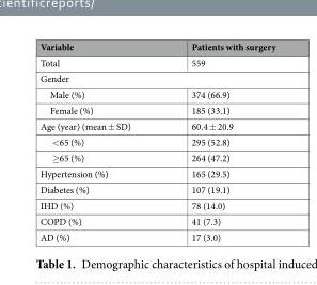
<table><thead><tr><td>Variable</td><td>Patients with surgery</td></tr></thead><tbody><tr><td>Total</td><td>559</td></tr><tr><td colspan="2">Gender</td></tr><tr><td>Male (%)</td><td>374 (66.9)</td></tr><tr><td>Female (%)</td><td>185 (33.1)</td></tr><tr><td>Age (year) (mean ± SD)</td><td>60.4 ± 20.9</td></tr><tr><td>&lt;65 (%)</td><td>295 (52.8)</td></tr><tr><td>≥65 (%)</td><td>264 (47.2)</td></tr><tr><td>Hypertension (%)</td><td>165 (29.5)</td></tr><tr><td>Diabetes (%)</td><td>107 (19.1)</td></tr><tr><td>IHD (%)</td><td>78 (14.0)</td></tr><tr><td>COPD (%)</td><td>41 (7.3)</td></tr><tr><td>AD (%)</td><td>17 (3.0)</td></tr></tbody></table>